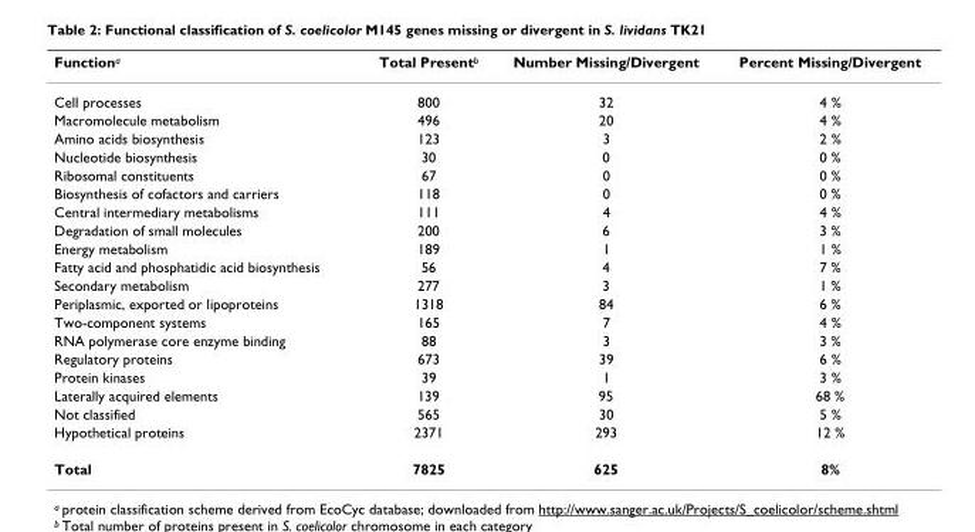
<table><thead><tr><td>Function<sup>a</sup></td><td>Total Present<sup>b</sup></td><td>Number Missing/Divergent</td><td>Percent Missing/Divergent</td></tr></thead><tbody><tr><td>Cell processes</td><td>800</td><td>32</td><td>4 %</td></tr><tr><td>Macromolecule metabolism</td><td>496</td><td>20</td><td>4 %</td></tr><tr><td>Amino acids biosynthesis</td><td>123</td><td>3</td><td>2 %</td></tr><tr><td>Nucleotide biosynthesis</td><td>30</td><td>0</td><td>0 %</td></tr><tr><td>Ribosomal constituents</td><td>67</td><td>0</td><td>0 %</td></tr><tr><td>Biosynthesis of cofactors and carriers</td><td>118</td><td>0</td><td>0 %</td></tr><tr><td>Central intermediary metabolisms</td><td>111</td><td>4</td><td>4 %</td></tr><tr><td>Degradation of small molecules</td><td>200</td><td>6</td><td>3 %</td></tr><tr><td>Energy metabolism</td><td>189</td><td>1</td><td>1 %</td></tr><tr><td>Fatty acid and phosphatidic acid biosynthesis</td><td>56</td><td>4</td><td>7 %</td></tr><tr><td>Secondary metabolism</td><td>277</td><td>3</td><td>1 %</td></tr><tr><td>Periplasmic, exported or lipoproteins</td><td>1318</td><td>84</td><td>6 %</td></tr><tr><td>Two-component systems</td><td>165</td><td>7</td><td>4 %</td></tr><tr><td>RNA polymerase core enzyme binding</td><td>88</td><td>3</td><td>3 %</td></tr><tr><td>Regulatory proteins</td><td>673</td><td>39</td><td>6 %</td></tr><tr><td>Protein kinases</td><td>39</td><td>1</td><td>3 %</td></tr><tr><td>Laterally acquired elements</td><td>139</td><td>95</td><td>68 %</td></tr><tr><td>Not classified</td><td>565</td><td>30</td><td>5 %</td></tr><tr><td>Hypothetical proteins</td><td>2371</td><td>293</td><td>12 %</td></tr><tr><td>Total</td><td>7825</td><td>625</td><td>8%</td></tr></tbody></table>